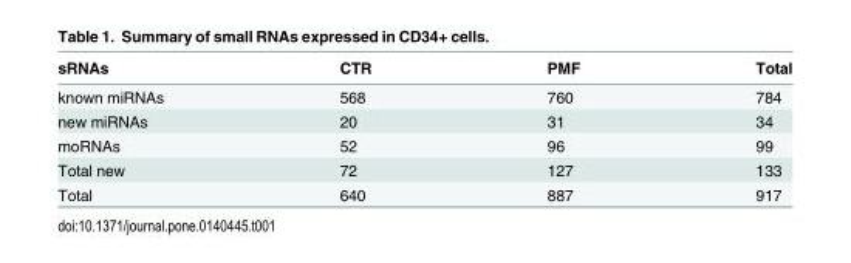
<table><thead><tr><td>sRNAs</td><td>CTR</td><td>PMF</td><td>Total</td></tr></thead><tbody><tr><td>known miRNAs</td><td>568</td><td>760</td><td>784</td></tr><tr><td>new miRNAs</td><td>20</td><td>31</td><td>34</td></tr><tr><td>moRNAs</td><td>52</td><td>96</td><td>99</td></tr><tr><td>Total new</td><td>72</td><td>127</td><td>133</td></tr><tr><td>Total</td><td>640</td><td>887</td><td>917</td></tr></tbody></table>